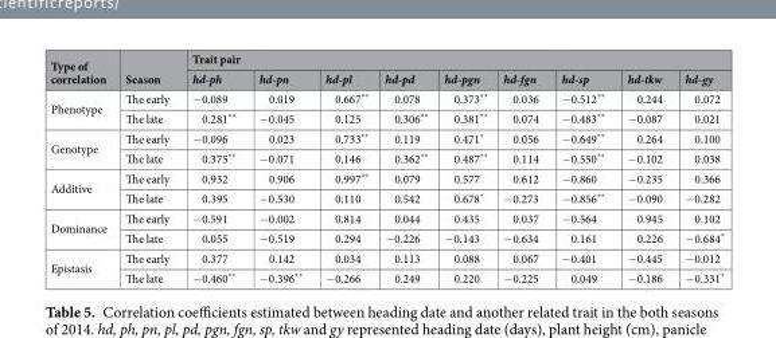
<table><thead><tr><td rowspan="2">Type of correlation</td><td rowspan="2">Season</td><td colspan="9">Trait pair</td></tr><tr><td>hd-ph</td><td>hd-pn</td><td>hd-pl</td><td>hd-pd</td><td>hd-pgn</td><td>hd-fgn</td><td>hd-sp</td><td>hd-tkw</td><td>hd-gy</td></tr></thead><tbody><tr><td rowspan="2">Phenotype</td><td>The early</td><td>−0.089</td><td>0.019</td><td>0.667**</td><td>0.078</td><td>0.373**</td><td>0.036</td><td>−0.512**</td><td>0.244</td><td>0.072</td></tr><tr><td>The late</td><td>0.281**</td><td>−0.045</td><td>0.125</td><td>0.306**</td><td>0.381**</td><td>0.074</td><td>−0.483**</td><td>−0.087</td><td>0.021</td></tr><tr><td rowspan="2">Genotype</td><td>The early</td><td>−0.096</td><td>0.023</td><td>0.733**</td><td>0.119</td><td>0.471*</td><td>0.056</td><td>−0.649**</td><td>0.264</td><td>0.100</td></tr><tr><td>The late</td><td>0.375**</td><td>−0.071</td><td>0.146</td><td>0.362**</td><td>0.487**</td><td>0.114</td><td>−0.550**</td><td>−0.102</td><td>0.038</td></tr><tr><td rowspan="2">Additive</td><td>The early</td><td>0.932</td><td>0.906</td><td>0.997**</td><td>0.079</td><td>0.577</td><td>0.612</td><td>−0.860</td><td>−0.235</td><td>0.366</td></tr><tr><td>The late</td><td>0.395</td><td>−0.530</td><td>0.110</td><td>0.542</td><td>0.678*</td><td>−0.273</td><td>−0.856**</td><td>−0.090</td><td>−0.282</td></tr><tr><td rowspan="2">Dominance</td><td>The early</td><td>−0.591</td><td>−0.002</td><td>0.814</td><td>0.044</td><td>0.435</td><td>0.037</td><td>−0.564</td><td>0.945</td><td>0.102</td></tr><tr><td>The late</td><td>0.055</td><td>−0.519</td><td>0.294</td><td>−0.226</td><td>−0.143</td><td>−0.634</td><td>0.161</td><td>0.226</td><td>−0.684*</td></tr><tr><td rowspan="2">Epistasis</td><td>The early</td><td>0.377</td><td>0.142</td><td>0.034</td><td>0.113</td><td>0.088</td><td>0.067</td><td>−0.401</td><td>−0.445</td><td>−0.012</td></tr><tr><td>The late</td><td>−0.460**</td><td>−0.396**</td><td>−0.266</td><td>0.249</td><td>0.220</td><td>−0.225</td><td>0.049</td><td>−0.186</td><td>−0.331*</td></tr></tbody></table>